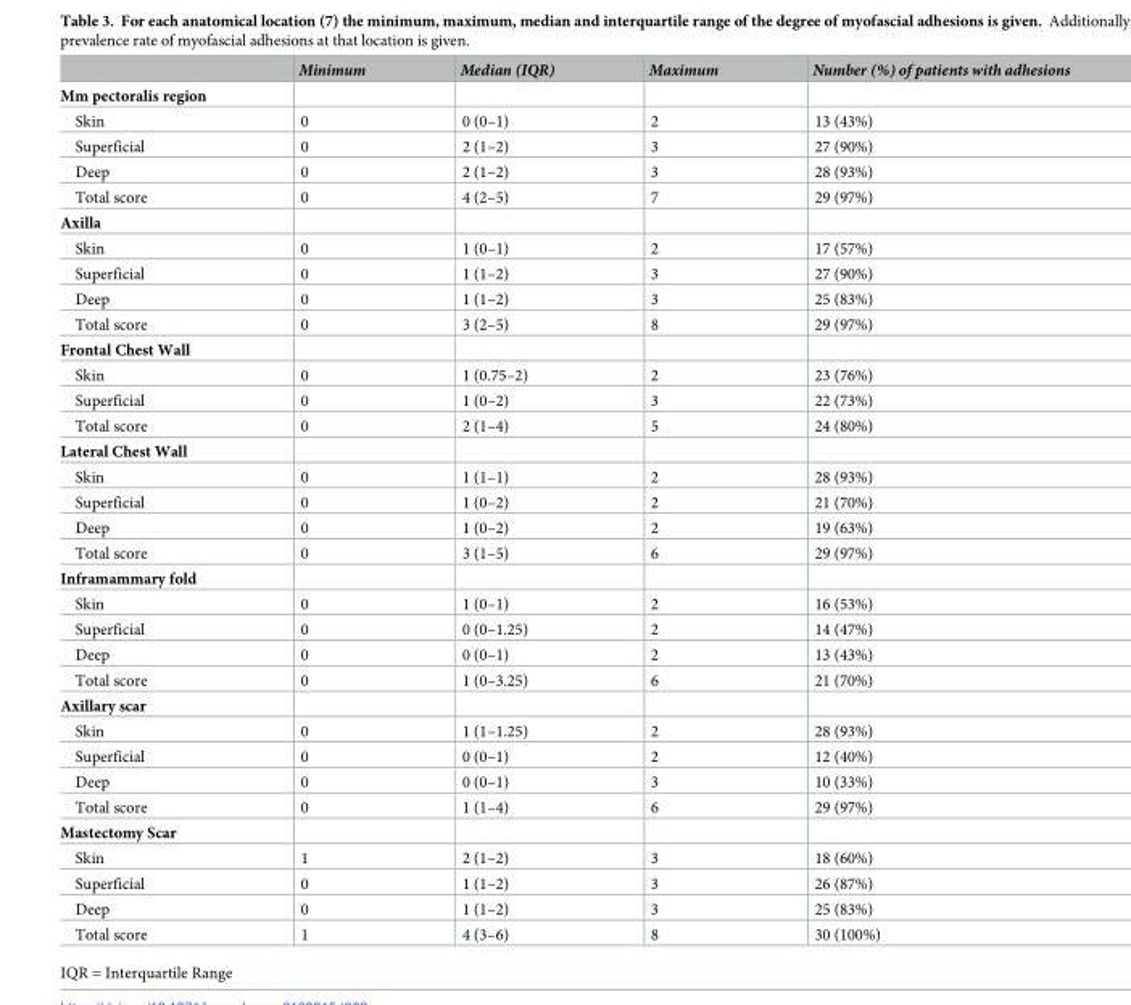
<table><thead><tr><td></td><td>Minimum</td><td>Median (IQR)</td><td>Maximum</td><td>Number (%) of patients with adhesions</td></tr></thead><tbody><tr><td colspan="5">Mm pectoralis region</td></tr><tr><td>Skin</td><td>0</td><td>0 (0–1)</td><td>2</td><td>13 (43%)</td></tr><tr><td>Superficial</td><td>0</td><td>2 (1–2)</td><td>3</td><td>27 (90%)</td></tr><tr><td>Deep</td><td>0</td><td>2 (1–2)</td><td>3</td><td>28 (93%)</td></tr><tr><td>Total score</td><td>0</td><td>4 (2–5)</td><td>7</td><td>29 (97%)</td></tr><tr><td colspan="5">Axilla</td></tr><tr><td>Skin</td><td>0</td><td>1 (0–1)</td><td>2</td><td>17 (57%)</td></tr><tr><td>Superficial</td><td>0</td><td>1 (1–2)</td><td>3</td><td>27 (90%)</td></tr><tr><td>Deep</td><td>0</td><td>1 (1–2)</td><td>3</td><td>25 (83%)</td></tr><tr><td>Total score</td><td>0</td><td>3 (2–5)</td><td>8</td><td>29 (97%)</td></tr><tr><td colspan="5">Frontal Chest Wall</td></tr><tr><td>Skin</td><td>0</td><td>1 (0.75–2)</td><td>2</td><td>23 (76%)</td></tr><tr><td>Superficial</td><td>0</td><td>1 (0–2)</td><td>3</td><td>22 (73%)</td></tr><tr><td>Total score</td><td>0</td><td>2 (1–4)</td><td>5</td><td>24 (80%)</td></tr><tr><td colspan="5">Lateral Chest Wall</td></tr><tr><td>Skin</td><td>0</td><td>1 (1–1)</td><td>2</td><td>28 (93%)</td></tr><tr><td>Superficial</td><td>0</td><td>1 (0–2)</td><td>2</td><td>21 (70%)</td></tr><tr><td>Deep</td><td>0</td><td>1 (0–2)</td><td>2</td><td>19 (63%)</td></tr><tr><td>Total score</td><td>0</td><td>3 (1–5)</td><td>6</td><td>29 (97%)</td></tr><tr><td colspan="5">Inframammary fold</td></tr><tr><td>Skin</td><td>0</td><td>1 (0–1)</td><td>2</td><td>16 (53%)</td></tr><tr><td>Superficial</td><td>0</td><td>0 (0–1.25)</td><td>2</td><td>14 (47%)</td></tr><tr><td>Deep</td><td>0</td><td>0 (0–1)</td><td>2</td><td>13 (43%)</td></tr><tr><td>Total score</td><td>0</td><td>1 (0–3.25)</td><td>6</td><td>21 (70%)</td></tr><tr><td colspan="5">Axillary scar</td></tr><tr><td>Skin</td><td>0</td><td>1 (1–1.25)</td><td>2</td><td>28 (93%)</td></tr><tr><td>Superficial</td><td>0</td><td>0 (0–1)</td><td>2</td><td>12 (40%)</td></tr><tr><td>Deep</td><td>0</td><td>0 (0–1)</td><td>3</td><td>10 (33%)</td></tr><tr><td>Total score</td><td>0</td><td>1 (1–4)</td><td>6</td><td>29 (97%)</td></tr><tr><td colspan="5">Mastectomy Scar</td></tr><tr><td>Skin</td><td>1</td><td>2 (1–2)</td><td>3</td><td>18 (60%)</td></tr><tr><td>Superficial</td><td>0</td><td>1 (1–2)</td><td>3</td><td>26 (87%)</td></tr><tr><td>Deep</td><td>0</td><td>1 (1–2)</td><td>3</td><td>25 (83%)</td></tr><tr><td>Total score</td><td>1</td><td>4 (3–6)</td><td>8</td><td>30 (100%)</td></tr></tbody></table>